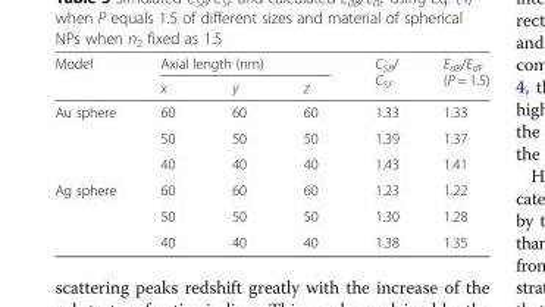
<table><thead><tr><td rowspan="2">Model</td><td colspan="3">Axial length (nm)</td><td rowspan="2">C<sub>SB</sub>/ C<sub>SF</sub></td><td rowspan="2">E<sub>dB</sub>/E<sub>dF</sub> (P = 1.5)</td></tr><tr><td>x</td><td>y</td><td>z</td></tr></thead><tbody><tr><td rowspan="3">Au sphere</td><td>60</td><td>60</td><td>60</td><td>1.33</td><td>1.33</td></tr><tr><td>50</td><td>50</td><td>50</td><td>1.39</td><td>1.37</td></tr><tr><td>40</td><td>40</td><td>40</td><td>1.43</td><td>1.41</td></tr><tr><td rowspan="3">Ag sphere</td><td>60</td><td>60</td><td>60</td><td>1.23</td><td>1.22</td></tr><tr><td>50</td><td>50</td><td>50</td><td>1.30</td><td>1.28</td></tr><tr><td>40</td><td>40</td><td>40</td><td>1.38</td><td>1.35</td></tr></tbody></table>